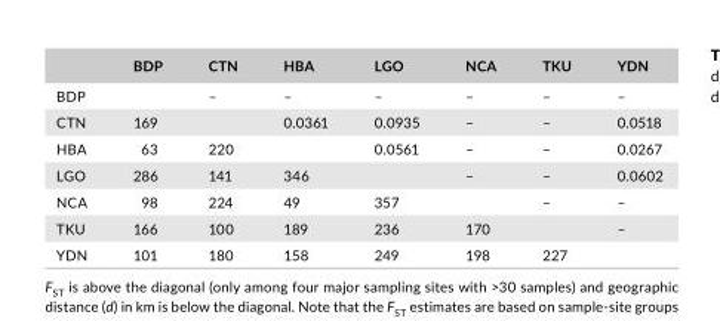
<table><thead><tr><td></td><td>BDP</td><td>CTN</td><td>HBA</td><td>LGO</td><td>NCA</td><td>TKU</td><td>YDN</td></tr></thead><tbody><tr><td>BDP</td><td></td><td>–</td><td>–</td><td>–</td><td>–</td><td>–</td><td>–</td></tr><tr><td>CTN</td><td>169</td><td></td><td>0.0361</td><td>0.0935</td><td>–</td><td>–</td><td>0.0518</td></tr><tr><td>HBA</td><td>63</td><td>220</td><td></td><td>0.0561</td><td>–</td><td>–</td><td>0.0267</td></tr><tr><td>LGO</td><td>286</td><td>141</td><td>346</td><td></td><td>–</td><td>–</td><td>0.0602</td></tr><tr><td>NCA</td><td>98</td><td>224</td><td>49</td><td>357</td><td></td><td>–</td><td>–</td></tr><tr><td>TKU</td><td>166</td><td>100</td><td>189</td><td>236</td><td>170</td><td></td><td>–</td></tr><tr><td>YDN</td><td>101</td><td>180</td><td>158</td><td>249</td><td>198</td><td>227</td><td></td></tr></tbody></table>